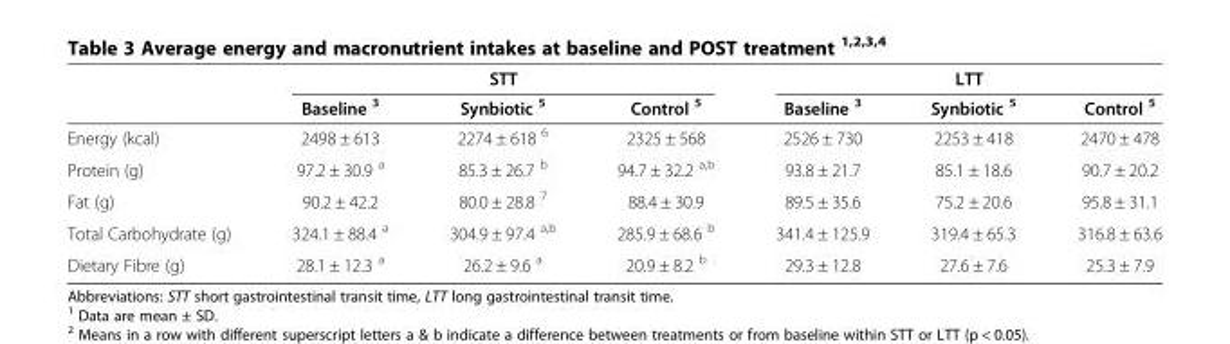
<table><thead><tr><td rowspan="2"></td><td colspan="3">STT</td><td colspan="3">LTT</td></tr><tr><td>Baseline <sup>3</sup></td><td>Synbiotic <sup>5</sup></td><td>Control <sup>5</sup></td><td>Baseline <sup>3</sup></td><td>Synbiotic <sup>5</sup></td><td>Control <sup>5</sup></td></tr></thead><tbody><tr><td>Energy (kcal)</td><td>2498 ± 613</td><td>2274 ± 618 <sup>6</sup></td><td>2325 ± 568</td><td>2526 ± 730</td><td>2253 ± 418</td><td>2470 ± 478</td></tr><tr><td>Protein (g)</td><td>97.2 ± 30.9 <sup>a</sup></td><td>85.3 ± 26.7 <sup>b</sup></td><td>94.7 ± 32.2 <sup>a,b</sup></td><td>93.8 ± 21.7</td><td>85.1 ± 18.6</td><td>90.7 ± 20.2</td></tr><tr><td>Fat (g)</td><td>90.2 ± 42.2</td><td>80.0 ± 28.8 <sup>7</sup></td><td>88.4 ± 30.9</td><td>89.5 ± 35.6</td><td>75.2 ± 20.6</td><td>95.8 ± 31.1</td></tr><tr><td>Total Carbohydrate (g)</td><td>324.1 ± 88.4 <sup>a</sup></td><td>304.9 ± 97.4 <sup>a,b</sup></td><td>285.9 ± 68.6 <sup>b</sup></td><td>341.4 ± 125.9</td><td>319.4 ± 65.3</td><td>316.8 ± 63.6</td></tr><tr><td>Dietary Fibre (g)</td><td>28.1 ± 12.3 <sup>a</sup></td><td>26.2 ± 9.6 <sup>a</sup></td><td>20.9 ± 8.2 <sup>b</sup></td><td>29.3 ± 12.8</td><td>27.6 ± 7.6</td><td>25.3 ± 7.9</td></tr></tbody></table>